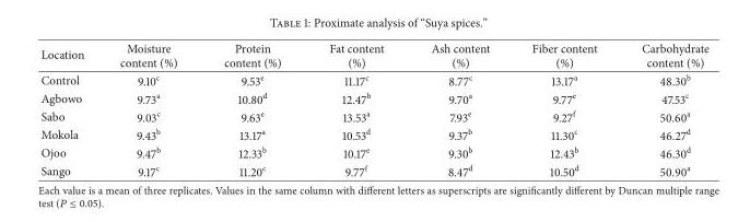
<table><thead><tr><td>Location</td><td>Moisture content (%)</td><td>Protein content (%)</td><td>Fat content (%)</td><td>Ash content (%)</td><td>Fiber content (%)</td><td>Carbohydrate content (%)</td></tr></thead><tbody><tr><td>Control</td><td>9.10<sup>c</sup></td><td>9.53<sup>e</sup></td><td>11.17<sup>c</sup></td><td>8.77<sup>c</sup></td><td>13.17<sup>a</sup></td><td>48.30<sup>b</sup></td></tr><tr><td>Agbowo</td><td>9.73<sup>a</sup></td><td>10.80<sup>d</sup></td><td>12.47<sup>b</sup></td><td>9.70<sup>a</sup></td><td>9.77<sup>e</sup></td><td>47.53<sup>c</sup></td></tr><tr><td>Sabo</td><td>9.03<sup>c</sup></td><td>9.63<sup>e</sup></td><td>13.53<sup>a</sup></td><td>7.93<sup>e</sup></td><td>9.27<sup>f</sup></td><td>50.60<sup>a</sup></td></tr><tr><td>Mokola</td><td>9.43<sup>b</sup></td><td>13.17<sup>a</sup></td><td>10.53<sup>d</sup></td><td>9.37<sup>b</sup></td><td>11.30<sup>c</sup></td><td>46.27<sup>d</sup></td></tr><tr><td>Ojoo</td><td>9.47<sup>b</sup></td><td>12.33<sup>b</sup></td><td>10.17<sup>e</sup></td><td>9.30<sup>b</sup></td><td>12.43<sup>b</sup></td><td>46.30<sup>d</sup></td></tr><tr><td>Sango</td><td>9.17<sup>c</sup></td><td>11.20<sup>c</sup></td><td>9.77<sup>f</sup></td><td>8.47<sup>d</sup></td><td>10.50<sup>d</sup></td><td>50.90<sup>a</sup></td></tr></tbody></table>